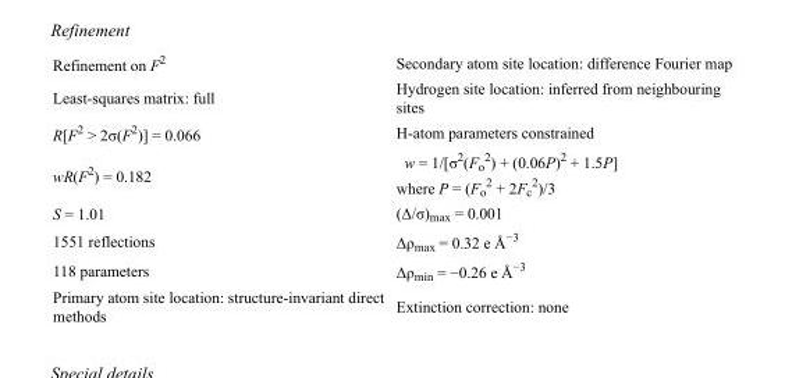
<table><tbody><tr><td>Refinement on F<sup>2</sup></td><td>Secondary atom site location: difference Fourier map</td></tr><tr><td>Least-squares matrix: full</td><td>Hydrogen site location: inferred from neighbouring sites</td></tr><tr><td>R[F<sup>2</sup> &gt; 2σ(F<sup>2</sup>)] = 0.066</td><td>H-atom parameters constrained</td></tr><tr><td>wR(F<sup>2</sup>) = 0.182</td><td>w = 1/[σ<sup>2</sup>(F<sub>o</sub> <sup>2</sup>) + (0.06P)<sup>2</sup> + 1.5P] where P = (F<sub>o</sub> <sup>2</sup> + 2F<sub>c</sub> <sup>2</sup>)/3</td></tr><tr><td>S = 1.01</td><td>(Δ/σ)<sub>max</sub> = 0.001</td></tr><tr><td>1551 reflections</td><td>Δρ<sub>max</sub> = 0.32 e Å<sup>−3</sup></td></tr><tr><td>118 parameters</td><td>Δρ<sub>min</sub> = −0.26 e Å<sup>−3</sup></td></tr><tr><td>Primary atom site location: structure-invariant direct methods</td><td>Extinction correction: none</td></tr></tbody></table>